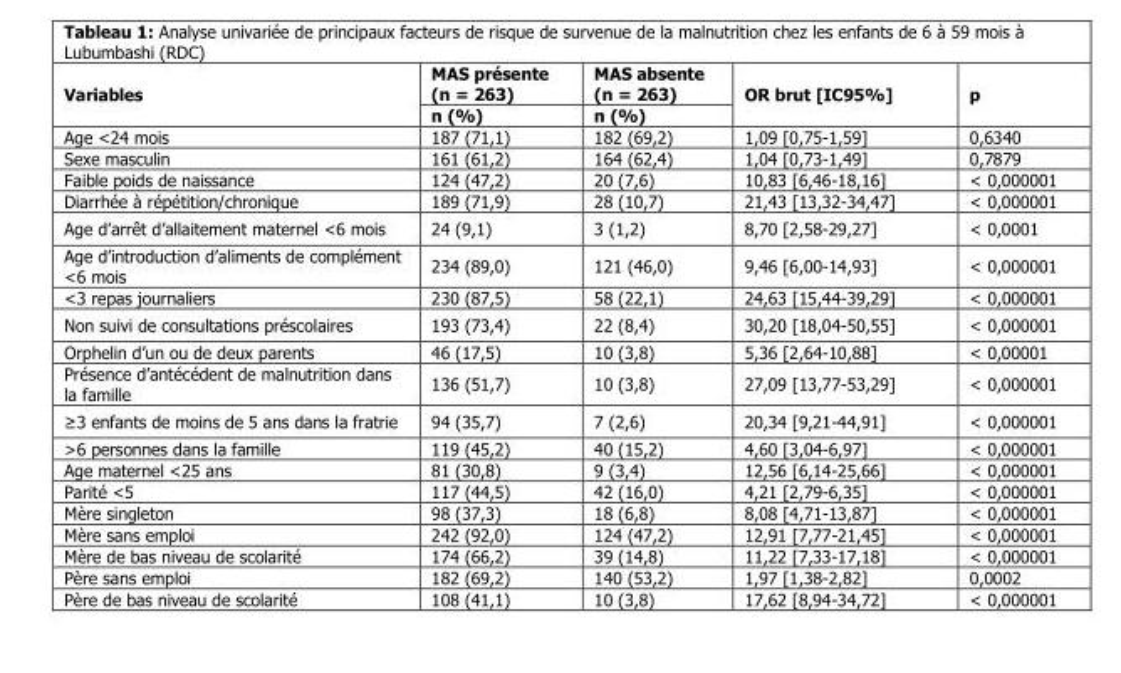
<table><thead><tr><td rowspan="2">Variables</td><td rowspan="2">MAS présente (n = 263) n (%)</td><td rowspan="2">MAS absente (n = 263) n (%)</td><td rowspan="2">OR brut [IC95%]</td><td rowspan="2">p</td></tr><tr></tr></thead><tbody><tr><td>Age &lt;24 mois</td><td>187 (71,1)</td><td>182 (69,2)</td><td>1,09 [0,75-1,59]</td><td>0,6340</td></tr><tr><td>Sexe masculin</td><td>161 (61,2)</td><td>164 (62,4)</td><td>1,04 [0,73-1,49]</td><td>0,7879</td></tr><tr><td>Faible poids de naissance</td><td>124 (47,2)</td><td>20 (7,6)</td><td>10,83 [6,46-18,16]</td><td>&lt; 0,000001</td></tr><tr><td>Diarrhée à répétition/chronique</td><td>189 (71,9)</td><td>28 (10,7)</td><td>21,43 [13,32-34,47]</td><td>&lt; 0,000001</td></tr><tr><td>Age d’arrêt d’allaitement maternel &lt;6 mois</td><td>24 (9,1)</td><td>3 (1,2)</td><td>8,70 [2,58-29,27]</td><td>&lt; 0,0001</td></tr><tr><td>Age d’introduction d’aliments de complément &lt;6 mois</td><td>234 (89,0)</td><td>121 (46,0)</td><td>9,46 [6,00-14,93]</td><td>&lt; 0,000001</td></tr><tr><td>&lt;3 repas journaliers</td><td>230 (87,5)</td><td>58 (22,1)</td><td>24,63 [15,44-39,29]</td><td>&lt; 0,000001</td></tr><tr><td>Non suivi de consultations préscolaires</td><td>193 (73,4)</td><td>22 (8,4)</td><td>30,20 [18,04-50,55]</td><td>&lt; 0,000001</td></tr><tr><td>Orphelin d’un ou de deux parents</td><td>46 (17,5)</td><td>10 (3,8)</td><td>5,36 [2,64-10,88]</td><td>&lt; 0,00001</td></tr><tr><td>Présence d’antécédent de malnutrition dans la famille</td><td>136 (51,7)</td><td>10 (3,8)</td><td>27,09 [13,77-53,29]</td><td>&lt; 0,000001</td></tr><tr><td>≥3 enfants de moins de 5 ans dans la fratrie</td><td>94 (35,7)</td><td>7 (2,6)</td><td>20,34 [9,21-44,91]</td><td>&lt; 0,000001</td></tr><tr><td>&gt;6 personnes dans la famille</td><td>119 (45,2)</td><td>40 (15,2)</td><td>4,60 [3,04-6,97]</td><td>&lt; 0,000001</td></tr><tr><td>Age maternel &lt;25 ans</td><td>81 (30,8)</td><td>9 (3,4)</td><td>12,56 [6,14-25,66]</td><td>&lt; 0,000001</td></tr><tr><td>Parité &lt;5</td><td>117 (44,5)</td><td>42 (16,0)</td><td>4,21 [2,79-6,35]</td><td>&lt; 0,000001</td></tr><tr><td>Mère singleton</td><td>98 (37,3)</td><td>18 (6,8)</td><td>8,08 [4,71-13,87]</td><td>&lt; 0,000001</td></tr><tr><td>Mère sans emploi</td><td>242 (92,0)</td><td>124 (47,2)</td><td>12,91 [7,77-21,45]</td><td>&lt; 0,000001</td></tr><tr><td>Mère de bas niveau de scolarité</td><td>174 (66,2)</td><td>39 (14,8)</td><td>11,22 [7,33-17,18]</td><td>&lt; 0,000001</td></tr><tr><td>Père sans emploi</td><td>182 (69,2)</td><td>140 (53,2)</td><td>1,97 [1,38-2,82]</td><td>0,0002</td></tr><tr><td>Père de bas niveau de scolarité</td><td>108 (41,1)</td><td>10 (3,8)</td><td>17,62 [8,94-34,72]</td><td>&lt; 0,000001</td></tr></tbody></table>